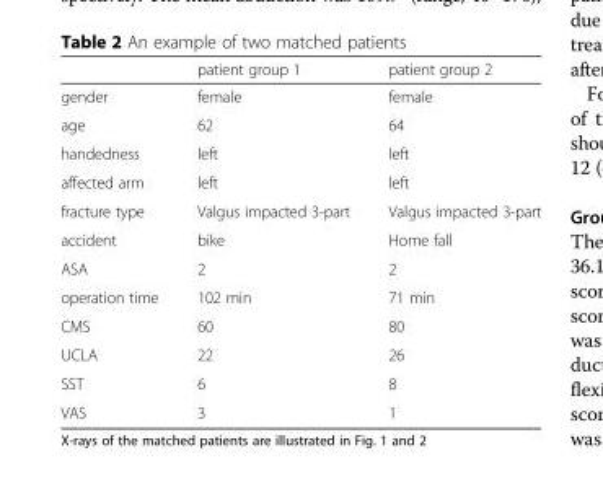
<table><thead><tr><td></td><td>patient group 1</td><td>patient group 2</td></tr></thead><tbody><tr><td>gender</td><td>female</td><td>female</td></tr><tr><td>age</td><td>62</td><td>64</td></tr><tr><td>handedness</td><td>left</td><td>left</td></tr><tr><td>affected arm</td><td>left</td><td>left</td></tr><tr><td>fracture type</td><td>Valgus impacted 3-part</td><td>Valgus impacted 3-part</td></tr><tr><td>accident</td><td>bike</td><td>Home fall</td></tr><tr><td>ASA</td><td>2</td><td>2</td></tr><tr><td>operation time</td><td>102 min</td><td>71 min</td></tr><tr><td>CMS</td><td>60</td><td>80</td></tr><tr><td>UCLA</td><td>22</td><td>26</td></tr><tr><td>SST</td><td>6</td><td>8</td></tr><tr><td>VAS</td><td>3</td><td>1</td></tr></tbody></table>